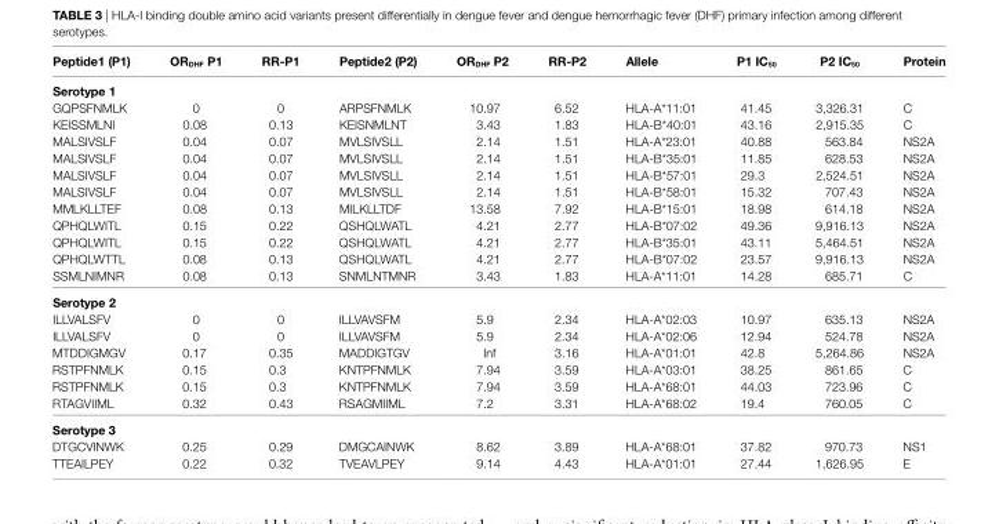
<table><thead><tr><td>Peptide1 (P1)</td><td>Or<sub>DhF</sub> P1</td><td>rr-P1</td><td>Peptide2 (P2)</td><td>Or<sub>DhF</sub> P2</td><td>rr-P2</td><td>allele</td><td>P1 ic<sub>50</sub></td><td>P2 ic<sub>50</sub></td><td>Protein</td></tr></thead><tbody><tr><td colspan="10">serotype 1</td></tr><tr><td>GQPSFNMLK</td><td>0</td><td>0</td><td>ARPSFNMLK</td><td>10.97</td><td>6.52</td><td>HLA-A*11:01</td><td>41.45</td><td>3,326.31</td><td>C</td></tr><tr><td>KEISSMLNI</td><td>0.08</td><td>0.13</td><td>KEISNMLNT</td><td>3.43</td><td>1.83</td><td>HLA-B*40:01</td><td>43.16</td><td>2,915.35</td><td>C</td></tr><tr><td>MALSIVSLF</td><td>0.04</td><td>0.07</td><td>MVLSIVSLL</td><td>2.14</td><td>1.51</td><td>HLA-A*23:01</td><td>40.88</td><td>563.84</td><td>NS2A</td></tr><tr><td>MALSIVSLF</td><td>0.04</td><td>0.07</td><td>MVLSIVSLL</td><td>2.14</td><td>1.51</td><td>HLA-B*35:01</td><td>11.85</td><td>628.53</td><td>NS2A</td></tr><tr><td>MALSIVSLF</td><td>0.04</td><td>0.07</td><td>MVLSIVSLL</td><td>2.14</td><td>1.51</td><td>HLA-B*57:01</td><td>29.3</td><td>2,524.51</td><td>NS2A</td></tr><tr><td>MALSIVSLF</td><td>0.04</td><td>0.07</td><td>MVLSIVSLL</td><td>2.14</td><td>1.51</td><td>HLA-B*58:01</td><td>15.32</td><td>707.43</td><td>NS2A</td></tr><tr><td>MMLKLLTEF</td><td>0.08</td><td>0.13</td><td>MILKLLTDF</td><td>13.58</td><td>7.92</td><td>HLA-B*15:01</td><td>18.98</td><td>614.18</td><td>NS2A</td></tr><tr><td>QPHQLWITL</td><td>0.15</td><td>0.22</td><td>QSHQLWATL</td><td>4.21</td><td>2.77</td><td>HLA-B*07:02</td><td>49.36</td><td>9,916.13</td><td>NS2A</td></tr><tr><td>QPHQLWITL</td><td>0.15</td><td>0.22</td><td>QSHQLWATL</td><td>4.21</td><td>2.77</td><td>HLA-B*35:01</td><td>43.11</td><td>5,464.51</td><td>NS2A</td></tr><tr><td>QPHQLWTTL</td><td>0.08</td><td>0.13</td><td>QSHQLWATL</td><td>4.21</td><td>2.77</td><td>HLA-B*07:02</td><td>23.57</td><td>9,916.13</td><td>NS2A</td></tr><tr><td>SSMLNIMNR</td><td>0.08</td><td>0.13</td><td>SNMLNTMNR</td><td>3.43</td><td>1.83</td><td>HLA-A*11:01</td><td>14.28</td><td>685.71</td><td>C</td></tr><tr><td colspan="10">serotype 2</td></tr><tr><td>ILLVALSFV</td><td>0</td><td>0</td><td>ILLVAVSFM</td><td>5.9</td><td>2.34</td><td>HLA-A*02:03</td><td>10.97</td><td>635.13</td><td>NS2A</td></tr><tr><td>ILLVALSFV</td><td>0</td><td>0</td><td>ILLVAVSFM</td><td>5.9</td><td>2.34</td><td>HLA-A*02:06</td><td>12.94</td><td>524.78</td><td>NS2A</td></tr><tr><td>MTDDIGMGV</td><td>0.17</td><td>0.35</td><td>MADDIGTGV</td><td>Inf</td><td>3.16</td><td>HLA-A*01:01</td><td>42.8</td><td>5,264.86</td><td>NS2A</td></tr><tr><td>RSTPFNMLK</td><td>0.15</td><td>0.3</td><td>KNTPFNMLK</td><td>7.94</td><td>3.59</td><td>HLA-A*03:01</td><td>38.25</td><td>861.65</td><td>C</td></tr><tr><td>RSTPFNMLK</td><td>0.15</td><td>0.3</td><td>KNTPFNMLK</td><td>7.94</td><td>3.59</td><td>HLA-A*68:01</td><td>44.03</td><td>723.96</td><td>C</td></tr><tr><td>RTAGVIIML</td><td>0.32</td><td>0.43</td><td>RSAGMIIML</td><td>7.2</td><td>3.31</td><td>HLA-A*68:02</td><td>19.4</td><td>760.05</td><td>C</td></tr><tr><td colspan="10">serotype 3</td></tr><tr><td>DTGCVINWK</td><td>0.25</td><td>0.29</td><td>DMGCAINWK</td><td>8.62</td><td>3.89</td><td>HLA-A*68:01</td><td>37.82</td><td>970.73</td><td>NS1</td></tr><tr><td>TTEAILPEY</td><td>0.22</td><td>0.32</td><td>TVEAVLPEY</td><td>9.14</td><td>4.43</td><td>HLA-A*01:01</td><td>27.44</td><td>1,626.95</td><td>E</td></tr></tbody></table>